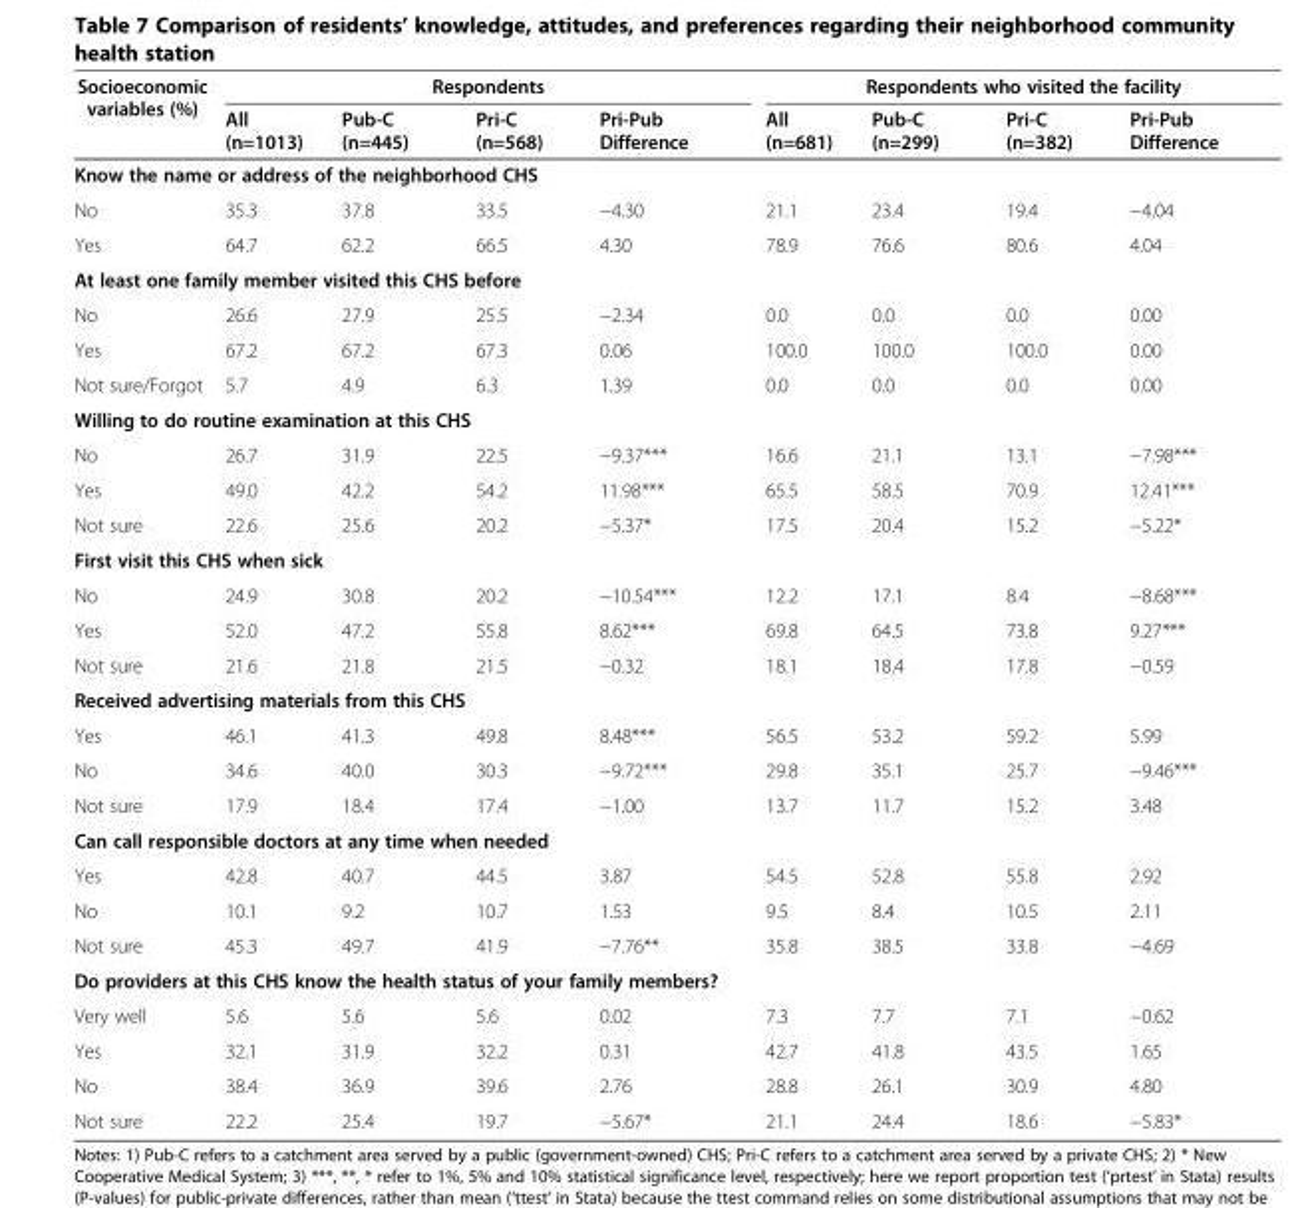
<table><thead><tr><td rowspan="2">Socioeconomic variables (%)</td><td colspan="4">Respondents</td><td colspan="4">Respondents who visited the facility</td></tr><tr><td>All (n=1013)</td><td>Pub-C (n=445)</td><td>Pri-C (n=568)</td><td>Pri-Pub Difference</td><td>All (n=681)</td><td>Pub-C (n=299)</td><td>Pri-C (n=382)</td><td>Pri-Pub Difference</td></tr></thead><tbody><tr><td colspan="9">Know the name or address of the neighborhood CHS</td></tr><tr><td>No</td><td>35.3</td><td>37.8</td><td>33.5</td><td>−4.30</td><td>21.1</td><td>23.4</td><td>19.4</td><td>−4.04</td></tr><tr><td>Yes</td><td>64.7</td><td>62.2</td><td>66.5</td><td>4.30</td><td>78.9</td><td>76.6</td><td>80.6</td><td>4.04</td></tr><tr><td colspan="9">At least one family member visited this CHS before</td></tr><tr><td>No</td><td>26.6</td><td>27.9</td><td>25.5</td><td>−2.34</td><td>0.0</td><td>0.0</td><td>0.0</td><td>0.00</td></tr><tr><td>Yes</td><td>67.2</td><td>67.2</td><td>67.3</td><td>0.06</td><td>100.0</td><td>100.0</td><td>100.0</td><td>0.00</td></tr><tr><td>Not sure/Forgot</td><td>5.7</td><td>4.9</td><td>6.3</td><td>1.39</td><td>0.0</td><td>0.0</td><td>0.0</td><td>0.00</td></tr><tr><td colspan="9">Willing to do routine examination at this CHS</td></tr><tr><td>No</td><td>26.7</td><td>31.9</td><td>22.5</td><td>−9.37***</td><td>16.6</td><td>21.1</td><td>13.1</td><td>−7.98***</td></tr><tr><td>Yes</td><td>49.0</td><td>42.2</td><td>54.2</td><td>11.98***</td><td>65.5</td><td>58.5</td><td>70.9</td><td>12.41***</td></tr><tr><td>Not sure</td><td>22.6</td><td>25.6</td><td>20.2</td><td>−5.37*</td><td>17.5</td><td>20.4</td><td>15.2</td><td>−5.22*</td></tr><tr><td colspan="9">First visit this CHS when sick</td></tr><tr><td>No</td><td>24.9</td><td>30.8</td><td>20.2</td><td>−10.54***</td><td>12.2</td><td>17.1</td><td>8.4</td><td>−8.68***</td></tr><tr><td>Yes</td><td>52.0</td><td>47.2</td><td>55.8</td><td>8.62***</td><td>69.8</td><td>64.5</td><td>73.8</td><td>9.27***</td></tr><tr><td>Not sure</td><td>21.6</td><td>21.8</td><td>21.5</td><td>−0.32</td><td>18.1</td><td>18.4</td><td>17.8</td><td>−0.59</td></tr><tr><td colspan="9">Received advertising materials from this CHS</td></tr><tr><td>Yes</td><td>46.1</td><td>41.3</td><td>49.8</td><td>8.48***</td><td>56.5</td><td>53.2</td><td>59.2</td><td>5.99</td></tr><tr><td>No</td><td>34.6</td><td>40.0</td><td>30.3</td><td>−9.72***</td><td>29.8</td><td>35.1</td><td>25.7</td><td>−9.46***</td></tr><tr><td>Not sure</td><td>17.9</td><td>18.4</td><td>17.4</td><td>−1.00</td><td>13.7</td><td>11.7</td><td>15.2</td><td>3.48</td></tr><tr><td colspan="9">Can call responsible doctors at any time when needed</td></tr><tr><td>Yes</td><td>42.8</td><td>40.7</td><td>44.5</td><td>3.87</td><td>54.5</td><td>52.8</td><td>55.8</td><td>2.92</td></tr><tr><td>No</td><td>10.1</td><td>9.2</td><td>10.7</td><td>1.53</td><td>9.5</td><td>8.4</td><td>10.5</td><td>2.11</td></tr><tr><td>Not sure</td><td>45.3</td><td>49.7</td><td>41.9</td><td>−7.76**</td><td>35.8</td><td>38.5</td><td>33.8</td><td>−4.69</td></tr><tr><td colspan="9">Do providers at this CHS know the health status of your family members?</td></tr><tr><td>Very well</td><td>5.6</td><td>5.6</td><td>5.6</td><td>0.02</td><td>7.3</td><td>7.7</td><td>7.1</td><td>−0.62</td></tr><tr><td>Yes</td><td>32.1</td><td>31.9</td><td>32.2</td><td>0.31</td><td>42.7</td><td>41.8</td><td>43.5</td><td>1.65</td></tr><tr><td>No</td><td>38.4</td><td>36.9</td><td>39.6</td><td>2.76</td><td>28.8</td><td>26.1</td><td>30.9</td><td>4.80</td></tr><tr><td>Not sure</td><td>22.2</td><td>25.4</td><td>19.7</td><td>−5.67*</td><td>21.1</td><td>24.4</td><td>18.6</td><td>−5.83*</td></tr></tbody></table>